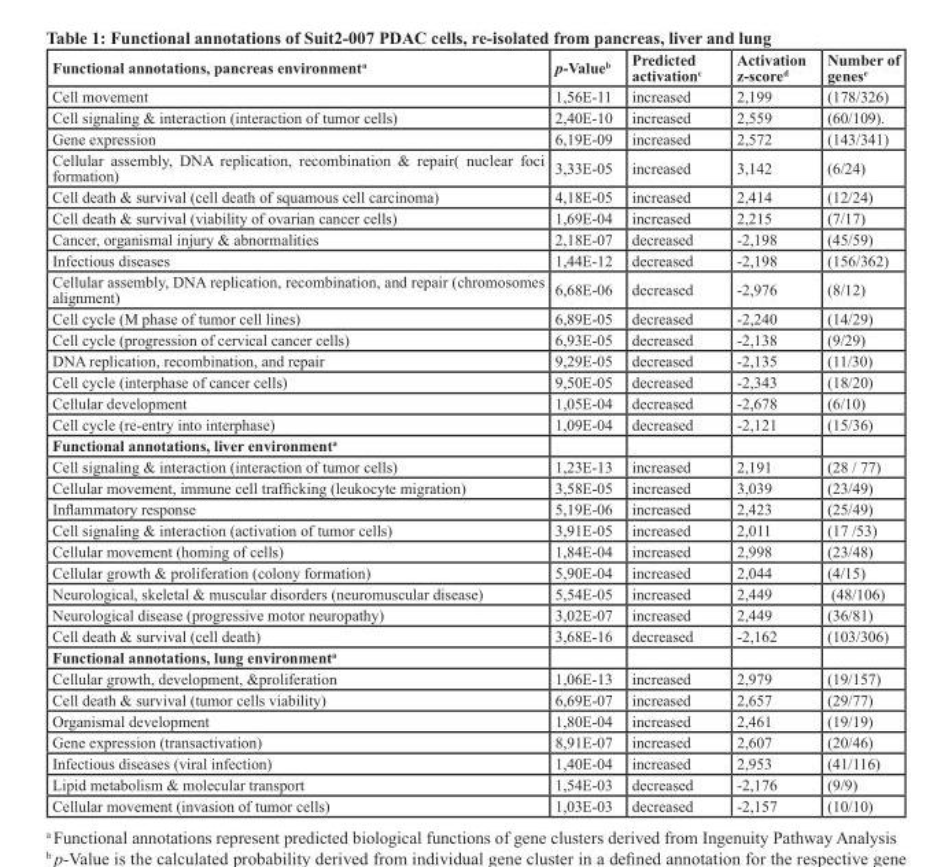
<table><thead><tr><td>Functional annotations, pancreas environment<sup>a</sup></td><td>p-Value<sup>b</sup></td><td>Predicted activation<sup>c</sup></td><td>Activation z-score<sup>d</sup></td><td>Number of genes<sup>e</sup></td></tr></thead><tbody><tr><td>Cell movement</td><td>1,56E-11</td><td>increased</td><td>2,199</td><td>(178/326)</td></tr><tr><td>Cell signaling &amp; interaction (interaction of tumor cells)</td><td>2,40E-10</td><td>increased</td><td>2,559</td><td>(60/109).</td></tr><tr><td>Gene expression</td><td>6,19E-09</td><td>increased</td><td>2,572</td><td>(143/341)</td></tr><tr><td>Cellular assembly, DNA replication, recombination &amp; repair( nuclear foci formation)</td><td>3,33E-05</td><td>increased</td><td>3,142</td><td>(6/24)</td></tr><tr><td>Cell death &amp; survival (cell death of squamous cell carcinoma)</td><td>4,18E-05</td><td>increased</td><td>2,414</td><td>(12/24)</td></tr><tr><td>Cell death &amp; survival (viability of ovarian cancer cells)</td><td>1,69E-04</td><td>increased</td><td>2,215</td><td>(7/17)</td></tr><tr><td>Cancer, organismal injury &amp; abnormalities</td><td>2,18E-07</td><td>decreased</td><td>-2,198</td><td>(45/59)</td></tr><tr><td>Infectious diseases</td><td>1,44E-12</td><td>decreased</td><td>-2,198</td><td>(156/362)</td></tr><tr><td>Cellular assembly, DNA replication, recombination, and repair (chromosomes alignment)</td><td>6,68E-06</td><td>decreased</td><td>-2,976</td><td>(8/12)</td></tr><tr><td>Cell cycle (M phase of tumor cell lines)</td><td>6,89E-05</td><td>decreased</td><td>-2,240</td><td>(14/29)</td></tr><tr><td>Cell cycle (progression of cervical cancer cells)</td><td>6,93E-05</td><td>decreased</td><td>-2,138</td><td>(9/29)</td></tr><tr><td>DNA replication, recombination, and repair</td><td>9,29E-05</td><td>decreased</td><td>-2,135</td><td>(11/30)</td></tr><tr><td>Cell cycle (interphase of cancer cells)</td><td>9,50E-05</td><td>decreased</td><td>-2,343</td><td>(18/20)</td></tr><tr><td>Cellular development</td><td>1,05E-04</td><td>decreased</td><td>-2,678</td><td>(6/10)</td></tr><tr><td>Cell cycle (re-entry into interphase)</td><td>1,09E-04</td><td>decreased</td><td>-2,121</td><td>(15/36)</td></tr><tr><td colspan="5">Functional annotations, liver environment<sup>a</sup></td></tr><tr><td>Cell signaling &amp; interaction (interaction of tumor cells)</td><td>1,23E-13</td><td>increased</td><td>2,191</td><td>(28 / 77)</td></tr><tr><td>Cellular movement, immune cell trafficking (leukocyte migration)</td><td>3,58E-05</td><td>increased</td><td>3,039</td><td>(23/49)</td></tr><tr><td>Inflammatory response</td><td>5,19E-06</td><td>increased</td><td>2,423</td><td>(25/49)</td></tr><tr><td>Cell signaling &amp; interaction (activation of tumor cells)</td><td>3,91E-05</td><td>increased</td><td>2,011</td><td>(17 /53)</td></tr><tr><td>Cellular movement (homing of cells)</td><td>1,84E-04</td><td>increased</td><td>2,998</td><td>(23/48)</td></tr><tr><td>Cellular growth &amp; proliferation (colony formation)</td><td>5,90E-04</td><td>increased</td><td>2,044</td><td>(4/15)</td></tr><tr><td>Neurological, skeletal &amp; muscular disorders (neuromuscular disease)</td><td>5,54E-05</td><td>increased</td><td>2,449</td><td>(48/106)</td></tr><tr><td>Neurological disease (progressive motor neuropathy)</td><td>3,02E-07</td><td>increased</td><td>2,449</td><td>(36/81)</td></tr><tr><td>Cell death &amp; survival (cell death)</td><td>3,68E-16</td><td>decreased</td><td>-2,162</td><td>(103/306)</td></tr><tr><td colspan="5">Functional annotations, lung environment<sup>a</sup></td></tr><tr><td>Cellular growth, development, &amp;proliferation</td><td>1,06E-13</td><td>increased</td><td>2,979</td><td>(19/157)</td></tr><tr><td>Cell death &amp; survival (tumor cells viability)</td><td>6,69E-07</td><td>increased</td><td>2,657</td><td>(29/77)</td></tr><tr><td>Organismal development</td><td>1,80E-04</td><td>increased</td><td>2,461</td><td>(19/19)</td></tr><tr><td>Gene expression (transactivation)</td><td>8,91E-07</td><td>increased</td><td>2,607</td><td>(20/46)</td></tr><tr><td>Infectious diseases (viral infection)</td><td>1,40E-04</td><td>increased</td><td>2,953</td><td>(41/116)</td></tr><tr><td>Lipid metabolism &amp; molecular transport</td><td>1,54E-03</td><td>decreased</td><td>-2,176</td><td>(9/9)</td></tr><tr><td>Cellular movement (invasion of tumor cells)</td><td>1,03E-03</td><td>decreased</td><td>-2,157</td><td>(10/10)</td></tr></tbody></table>